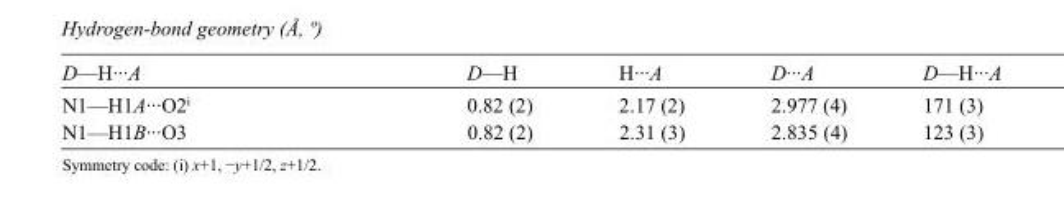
<table><tbody><tr><td>D—H···A</td><td>D—H</td><td>H···A</td><td>D···A</td><td>D—H···A</td></tr><tr><td>N1—H1A···O2<sup>i</sup></td><td>0.82 (2)</td><td>2.17 (2)</td><td>2.977 (4)</td><td>171 (3)</td></tr><tr><td>N1—H1B···O3</td><td>0.82 (2)</td><td>2.31 (3)</td><td>2.835 (4)</td><td>123 (3)</td></tr></tbody></table>